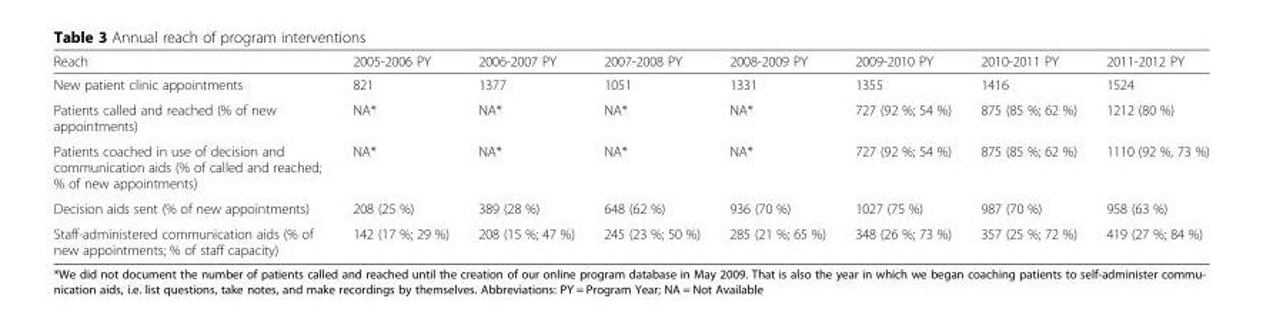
<table><thead><tr><td>Reach</td><td>2005-2006 PY</td><td>2006-2007 PY</td><td>2007-2008 PY</td><td>2008-2009 PY</td><td>2009-2010 PY</td><td>2010-2011 PY</td><td>2011-2012 PY</td></tr></thead><tbody><tr><td>New patient clinic appointments</td><td>821</td><td>1377</td><td>1051</td><td>1331</td><td>1355</td><td>1416</td><td>1524</td></tr><tr><td>Patients called and reached (% of new appointments)</td><td>NA*</td><td>NA*</td><td>NA*</td><td>NA*</td><td>727 (92 %; 54 %)</td><td>875 (85 %; 62 %)</td><td>1212 (80 %)</td></tr><tr><td>Patients coached in use of decision and communication aids (% of called and reached; % of new appointments)</td><td>NA*</td><td>NA*</td><td>NA*</td><td>NA*</td><td>727 (92 %; 54 %)</td><td>875 (85 %; 62 %)</td><td>1110 (92 %, 73 %)</td></tr><tr><td>Decision aids sent (% of new appointments)</td><td>208 (25 %)</td><td>389 (28 %)</td><td>648 (62 %)</td><td>936 (70 %)</td><td>1027 (75 %)</td><td>987 (70 %)</td><td>958 (63 %)</td></tr><tr><td>Staff-administered communication aids (% of new appointments; % of staff capacity)</td><td>142 (17 %; 29 %)</td><td>208 (15 %; 47 %)</td><td>245 (23 %; 50 %)</td><td>285 (21 %; 65 %)</td><td>348 (26 %; 73 %)</td><td>357 (25 %; 72 %)</td><td>419 (27 %; 84 %)</td></tr></tbody></table>